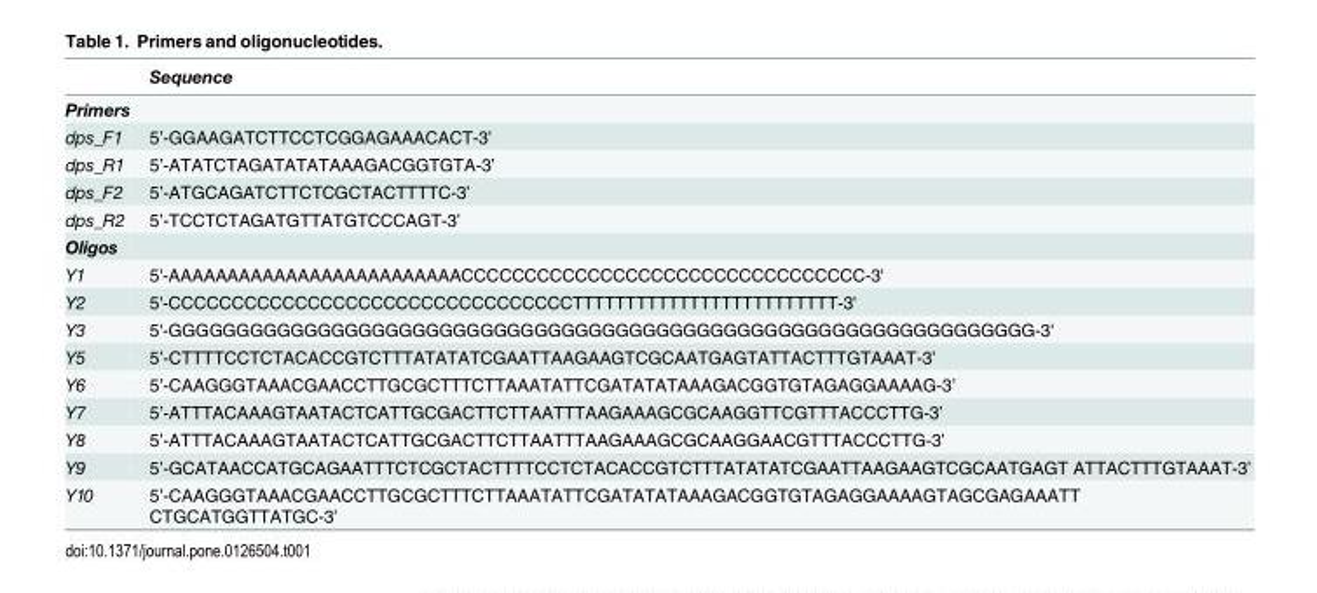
<table><thead><tr><td></td><td>Sequence</td></tr></thead><tbody><tr><td colspan="2">Primers</td></tr><tr><td>dps_F1</td><td>5’-GGAAGATCTTCCTCGGAGAAACACT-3’</td></tr><tr><td>dps_R1</td><td>5’-ATATCTAGATATATAAAGACGGTGTA-3’</td></tr><tr><td>dps_F2</td><td>5’-ATGCAGATCTTCTCGCTACTTTTC-3’</td></tr><tr><td>dps_R2</td><td>5’-TCCTCTAGATGTTATGTCCCAGT-3’</td></tr><tr><td colspan="2">Oligos</td></tr><tr><td>Y1</td><td>5&#x27;-AAAAAAAAAAAAAAAAAAAAAAAAACCCCCCCCCCCCCCCCCCCCCCCCCCCCCCCC-3&#x27;</td></tr><tr><td>Y2</td><td>5&#x27;-CCCCCCCCCCCCCCCCCCCCCCCCCCCCCCCCTTTTTTTTTTTTTTTTTTTTTTTTT-3&#x27;</td></tr><tr><td>Y3</td><td>5&#x27;-GGGGGGGGGGGGGGGGGGGGGGGGGGGGGGGGGGGGGGGGGGGGGGGGGGGGGGGGGGGGGGGG-3&#x27;</td></tr><tr><td>Y5</td><td>5’-CTTTTCCTCTACACCGTCTTTATATATCGAATTAAGAAGTCGCAATGAGTATTACTTTGTAAAT-3’</td></tr><tr><td>Y6</td><td>5’-CAAGGGTAAACGAACCTTGCGCTTTCTTAAATATTCGATATATAAAGACGGTGTAGAGGAAAAG-3’</td></tr><tr><td>Y7</td><td>5’-ATTTACAAAGTAATACTCATTGCGACTTCTTAATTTAAGAAAGCGCAAGGTTCGTTTACCCTTG-3’</td></tr><tr><td>Y8</td><td>5’-ATTTACAAAGTAATACTCATTGCGACTTCTTAATTTAAGAAAGCGCAAGGAACGTTTACCCTTG-3’</td></tr><tr><td>Y9</td><td>5’-GCATAACCATGCAGAATTTCTCGCTACTTTTCCTCTACACCGTCTTTATATATCGAATTAAGAAGTCGCAATGAGT ATTACTTTGTAAAT-3’</td></tr><tr><td>Y10</td><td>5’-CAAGGGTAAACGAACCTTGCGCTTTCTTAAATATTCGATATATAAAGACGGTGTAGAGGAAAAGTAGCGAGAAATT CTGCATGGTTATGC-3’</td></tr></tbody></table>